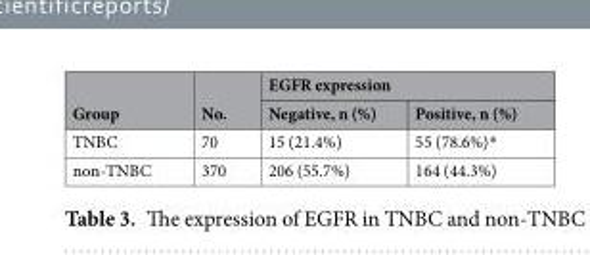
<table><thead><tr><td rowspan="2">Group</td><td rowspan="2">No.</td><td colspan="2">EGFR expression</td></tr><tr><td>Negative, n (%)</td><td>Positive, n (%)</td></tr></thead><tbody><tr><td>TNBC</td><td>70</td><td>15 (21.4%)</td><td>55 (78.6%)*</td></tr><tr><td>non-TNBC</td><td>370</td><td>206 (55.7%)</td><td>164 (44.3%)</td></tr></tbody></table>